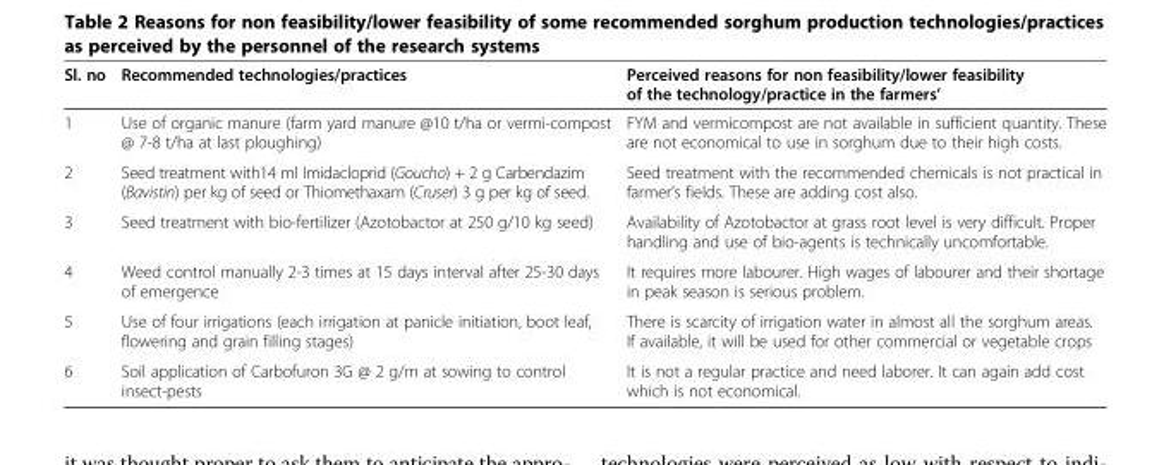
<table><thead><tr><td>Sl. no</td><td>Recommended technologies/practices</td><td>Perceived reasons for non feasibility/lower feasibility of the technology/practice in the farmers’</td></tr></thead><tbody><tr><td>1</td><td>Use of organic manure (farm yard manure @10 t/ha or vermi-compost @ 7-8 t/ha at last ploughing)</td><td>FYM and vermicompost are not available in sufficient quantity. These are not economical to use in sorghum due to their high costs.</td></tr><tr><td>2</td><td>Seed treatment with14 ml Imidacloprid (Goucho) + 2 g Carbendazim (Bavistin) per kg of seed or Thiomethaxam (Cruser) 3 g per kg of seed.</td><td>Seed treatment with the recommended chemicals is not practical in farmer’s fields. These are adding cost also.</td></tr><tr><td>3</td><td>Seed treatment with bio-fertilizer (Azotobactor at 250 g/10 kg seed)</td><td>Availability of Azotobactor at grass root level is very difficult. Proper handling and use of bio-agents is technically uncomfortable.</td></tr><tr><td>4</td><td>Weed control manually 2-3 times at 15 days interval after 25-30 days of emergence</td><td>It requires more labourer. High wages of labourer and their shortage in peak season is serious problem.</td></tr><tr><td>5</td><td>Use of four irrigations (each irrigation at panicle initiation, boot leaf, flowering and grain filling stages)</td><td>There is scarcity of irrigation water in almost all the sorghum areas. If available, it will be used for other commercial or vegetable crops</td></tr><tr><td>6</td><td>Soil application of Carbofuron 3G @ 2 g/m at sowing to control insect-pests</td><td>It is not a regular practice and need laborer. It can again add cost which is not economical.</td></tr></tbody></table>